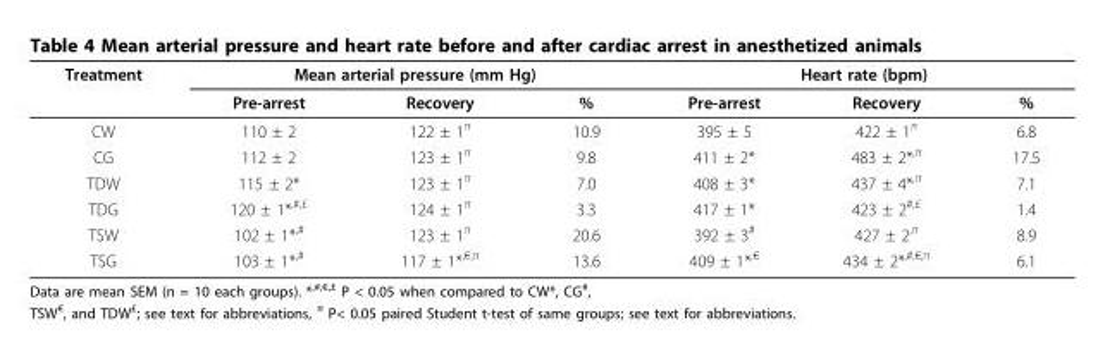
<table><thead><tr><td rowspan="2">Treatment</td><td colspan="3">Mean arterial pressure (mm Hg)</td><td colspan="3">Heart rate (bpm)</td></tr><tr><td>Pre-arrest</td><td>Recovery</td><td>%</td><td>Pre-arrest</td><td>Recovery</td><td>%</td></tr></thead><tbody><tr><td>CW</td><td>110 ± 2</td><td>122 ± 1<sup>π</sup></td><td>10.9</td><td>395 ± 5</td><td>422 ± 1<sup>π</sup></td><td>6.8</td></tr><tr><td>CG</td><td>112 ± 2</td><td>123 ± 1<sup>π</sup></td><td>9.8</td><td>411 ± 2*</td><td>483 ± 2*<sup>,π</sup></td><td>17.5</td></tr><tr><td>TDW</td><td>115 ± 2*</td><td>123 ± 1<sup>π</sup></td><td>7.0</td><td>408 ± 3*</td><td>437 ± 4*<sup>,π</sup></td><td>7.1</td></tr><tr><td>TDG</td><td>120 ± 1*<sup>,#,£</sup></td><td>124 ± 1<sup>π</sup></td><td>3.3</td><td>417 ± 1*</td><td>423 ± 2<sup>#,£</sup></td><td>1.4</td></tr><tr><td>TSW</td><td>102 ± 1*<sup>,#</sup></td><td>123 ± 1<sup>π</sup></td><td>20.6</td><td>392 ± 3<sup>#</sup></td><td>427 ± 2<sup>,π</sup></td><td>8.9</td></tr><tr><td>TSG</td><td>103 ± 1*<sup>,#</sup></td><td>117 ± 1*<sup>,€,π</sup></td><td>13.6</td><td>409 ± 1*<sup>,€</sup></td><td>434 ± 2*<sup>,#,€,π</sup></td><td>6.1</td></tr></tbody></table>